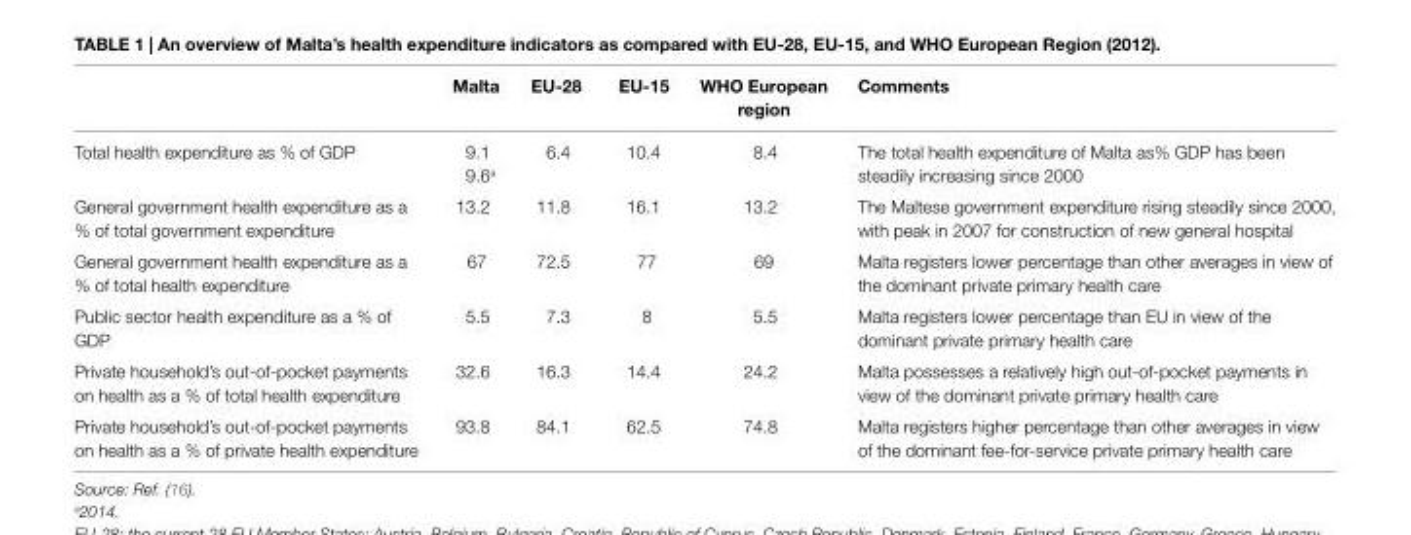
<table><thead><tr><td></td><td>Malta</td><td>eU-28</td><td>eU-15</td><td>WhO european region</td><td>comments</td></tr></thead><tbody><tr><td rowspan="2">Total health expenditure as % of GDP</td><td>9.1</td><td rowspan="2">6.4</td><td rowspan="2">10.4</td><td rowspan="2">8.4</td><td rowspan="2">The total health expenditure of Malta as% GDP has been steadily increasing since 2000</td></tr><tr><td>9.6<sup>a</sup></td></tr><tr><td>General government health expenditure as a % of total government expenditure</td><td>13.2</td><td>11.8</td><td>16.1</td><td>13.2</td><td>The Maltese government expenditure rising steadily since 2000, with peak in 2007 for construction of new general hospital</td></tr><tr><td>General government health expenditure as a % of total health expenditure</td><td>67</td><td>72.5</td><td>77</td><td>69</td><td>Malta registers lower percentage than other averages in view of the dominant private primary health care</td></tr><tr><td>Public sector health expenditure as a % of GDP</td><td>5.5</td><td>7.3</td><td>8</td><td>5.5</td><td>Malta registers lower percentage than EU in view of the dominant private primary health care</td></tr><tr><td>Private household’s out-of-pocket payments on health as a % of total health expenditure</td><td>32.6</td><td>16.3</td><td>14.4</td><td>24.2</td><td>Malta possesses a relatively high out-of-pocket payments in view of the dominant private primary health care</td></tr><tr><td>Private household’s out-of-pocket payments on health as a % of private health expenditure</td><td>93.8</td><td>84.1</td><td>62.5</td><td>74.8</td><td>Malta registers higher percentage than other averages in view of the dominant fee-for-service private primary health care</td></tr></tbody></table>